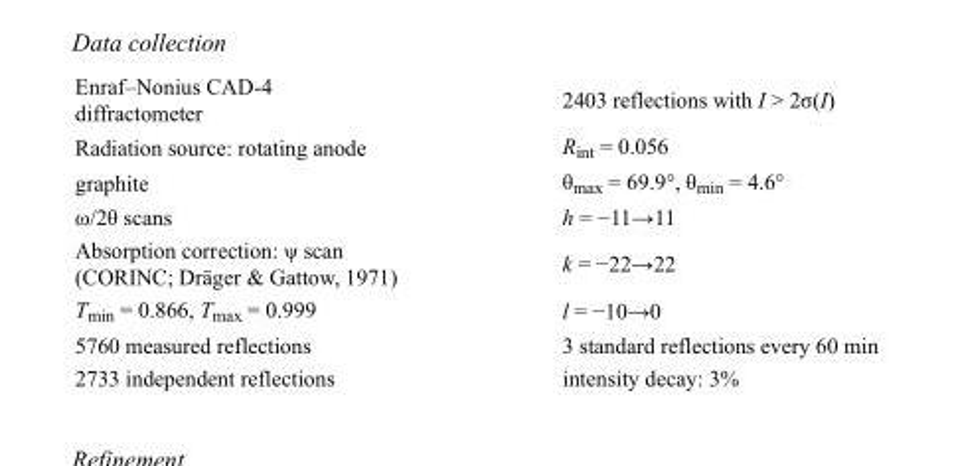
<table><tbody><tr><td>Enraf–Nonius CAD-4 diffractometer</td><td>2403 reflections with I &gt; 2σ(I)</td></tr><tr><td>Radiation source: rotating anode</td><td>R<sub>int</sub> = 0.056</td></tr><tr><td>graphite</td><td>θ<sub>max</sub> = 69.9°, θ<sub>min</sub> = 4.6°</td></tr><tr><td>ω/2θ scans</td><td>h = −11→11</td></tr><tr><td>Absorption correction: ψ scan (CORINC; Dräger &amp; Gattow, 1971)</td><td>k = −22→22</td></tr><tr><td>T<sub>min</sub> = 0.866, T<sub>max</sub> = 0.999</td><td>l = −10→0</td></tr><tr><td>5760 measured reflections</td><td>3 standard reflections every 60 min</td></tr><tr><td>2733 independent reflections</td><td>intensity decay: 3%</td></tr></tbody></table>